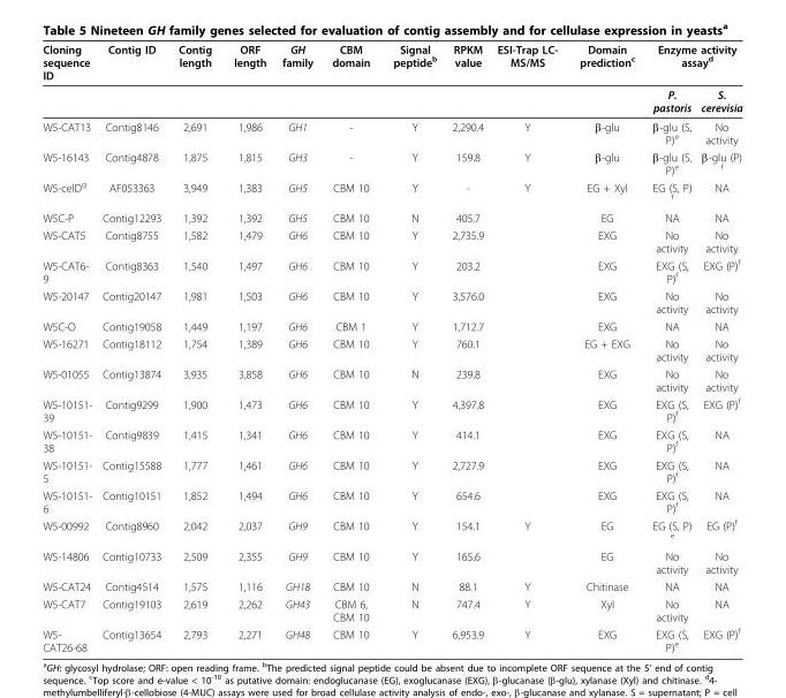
<table><thead><tr><td rowspan="2">Cloning sequence ID</td><td rowspan="2">Contig ID</td><td rowspan="2">Contig length</td><td rowspan="2">ORF length</td><td rowspan="2">GH family</td><td rowspan="2">CBM domain</td><td rowspan="2">Signal peptide<sup>b</sup></td><td rowspan="2">RPKM value</td><td rowspan="2">ESI-Trap LC- MS/MS</td><td rowspan="2">Domain prediction<sup>c</sup></td><td colspan="2">Enzyme activity assay<sup>d</sup></td></tr><tr><td>P. pastoris</td><td>S. cerevisia</td></tr></thead><tbody><tr><td>W5-CAT13</td><td>Contig8146</td><td>2,691</td><td>1,986</td><td>GH1</td><td>-</td><td>Y</td><td>2,290.4</td><td>Y</td><td>β-glu</td><td>β-glu (S, P)<sup>e</sup></td><td>No activity</td></tr><tr><td>W5-16143</td><td>Contig4878</td><td>1,875</td><td>1,815</td><td>GH3</td><td>-</td><td>Y</td><td>159.8</td><td>Y</td><td>β-glu</td><td>β-glu (S, P)<sup>e</sup></td><td>β-glu (P) <sup>f</sup></td></tr><tr><td>W5-celD<sup>g</sup></td><td>AF053363</td><td>3,949</td><td>1,383</td><td>GH5</td><td>CBM 10</td><td>Y</td><td>-</td><td>Y</td><td>EG + Xyl</td><td>EG (S, P) <sup>f</sup></td><td>NA</td></tr><tr><td>W5C-P</td><td>Contig12293</td><td>1,392</td><td>1,392</td><td>GH5</td><td>CBM 10</td><td>N</td><td>405.7</td><td></td><td>EG</td><td>NA</td><td>NA</td></tr><tr><td>W5-CAT5</td><td>Contig8755</td><td>1,582</td><td>1,479</td><td>GH6</td><td>CBM 10</td><td>Y</td><td>2,735.9</td><td></td><td>EXG</td><td>No activity</td><td>No activity</td></tr><tr><td>W5-CAT6- 9</td><td>Contig8363</td><td>1,540</td><td>1,497</td><td>GH6</td><td>CBM 10</td><td>Y</td><td>203.2</td><td></td><td>EXG</td><td>EXG (S, P)<sup>f</sup></td><td>EXG (P)<sup>f</sup></td></tr><tr><td>W5-20147</td><td>Contig20147</td><td>1,981</td><td>1,503</td><td>GH6</td><td>CBM 10</td><td>Y</td><td>3,576.0</td><td></td><td>EXG</td><td>No activity</td><td>No activity</td></tr><tr><td>W5C-O</td><td>Contig19058</td><td>1,449</td><td>1,197</td><td>GH6</td><td>CBM 1</td><td>Y</td><td>1,712.7</td><td></td><td>EXG</td><td>NA</td><td>NA</td></tr><tr><td>W5-16271</td><td>Contig18112</td><td>1,754</td><td>1,389</td><td>GH6</td><td>CBM 10</td><td>Y</td><td>760.1</td><td></td><td>EG + EXG</td><td>No activity</td><td>No activity</td></tr><tr><td>W5-01055</td><td>Contig13874</td><td>3,935</td><td>3,858</td><td>GH6</td><td>CBM 10</td><td>N</td><td>239.8</td><td></td><td>EXG</td><td>No activity</td><td>No activity</td></tr><tr><td>W5-10151- 39</td><td>Contig9299</td><td>1,900</td><td>1,473</td><td>GH6</td><td>CBM 10</td><td>Y</td><td>4,397.8</td><td></td><td>EXG</td><td>EXG (S, P)<sup>f</sup></td><td>EXG (P)<sup>f</sup></td></tr><tr><td>W5-10151- 38</td><td>Contig9839</td><td>1,415</td><td>1,341</td><td>GH6</td><td>CBM 10</td><td>Y</td><td>414.1</td><td></td><td>EXG</td><td>EXG (S, P)<sup>f</sup></td><td>NA</td></tr><tr><td>W5-10151- 5</td><td>Contig15588</td><td>1,777</td><td>1,461</td><td>GH6</td><td>CBM 10</td><td>Y</td><td>2,727.9</td><td></td><td>EXG</td><td>EXG (S, P)<sup>f</sup></td><td>NA</td></tr><tr><td>W5-10151- 6</td><td>Contig10151</td><td>1,852</td><td>1,494</td><td>GH6</td><td>CBM 10</td><td>Y</td><td>654.6</td><td></td><td>EXG</td><td>EXG (S, P)<sup>f</sup></td><td>NA</td></tr><tr><td>W5-00992</td><td>Contig8960</td><td>2,042</td><td>2,037</td><td>GH9</td><td>CBM 10</td><td>Y</td><td>154.1</td><td>Y</td><td>EG</td><td>EG (S, P) <sup>e</sup></td><td>EG (P)<sup>f</sup></td></tr><tr><td>W5-14806</td><td>Contig10733</td><td>2,509</td><td>2,355</td><td>GH9</td><td>CBM 10</td><td>Y</td><td>165.6</td><td></td><td>EG</td><td>No activity</td><td>No activity</td></tr><tr><td>W5-CAT24</td><td>Contig4514</td><td>1,575</td><td>1,116</td><td>GH18</td><td>CBM 10</td><td>N</td><td>88.1</td><td>Y</td><td>Chitinase</td><td>NA</td><td>NA</td></tr><tr><td>W5-CAT7</td><td>Contig19103</td><td>2,619</td><td>2,262</td><td>GH43</td><td>CBM 6, CBM 10</td><td>N</td><td>747.4</td><td>Y</td><td>Xyl</td><td>No activity</td><td>NA</td></tr><tr><td>W5- CAT26-68</td><td>Contig13654</td><td>2,793</td><td>2,271</td><td>GH48</td><td>CBM 10</td><td>Y</td><td>6,953.9</td><td>Y</td><td>EXG</td><td>EXG (S, P)<sup>e</sup></td><td>EXG (P)<sup>f</sup></td></tr></tbody></table>